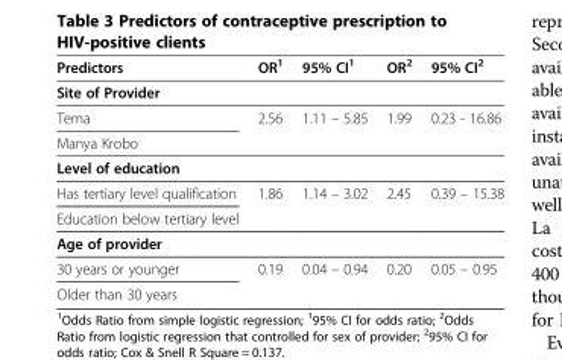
<table><thead><tr><td>Predictors</td><td>OR<sup>1</sup></td><td>95% CI<sup>1</sup></td><td>OR<sup>2</sup></td><td>95% CI<sup>2</sup></td></tr></thead><tbody><tr><td colspan="5">Site of Provider</td></tr><tr><td>Tema</td><td rowspan="2">2.56</td><td rowspan="2">1.11 – 5.85</td><td rowspan="2">1.99</td><td rowspan="2">0.23 - 16.86</td></tr><tr><td>Manya Krobo</td></tr><tr><td colspan="5">Level of education</td></tr><tr><td>Has tertiary level qualification</td><td rowspan="2">1.86</td><td rowspan="2">1.14 – 3.02</td><td rowspan="2">2.45</td><td rowspan="2">0.39 – 15.38</td></tr><tr><td>Education below tertiary level</td></tr><tr><td colspan="5">Age of provider</td></tr><tr><td>30 years or younger</td><td rowspan="2">0.19</td><td rowspan="2">0.04 – 0.94</td><td rowspan="2">0.20</td><td rowspan="2">0.05 – 0.95</td></tr><tr><td>Older than 30 years</td></tr></tbody></table>